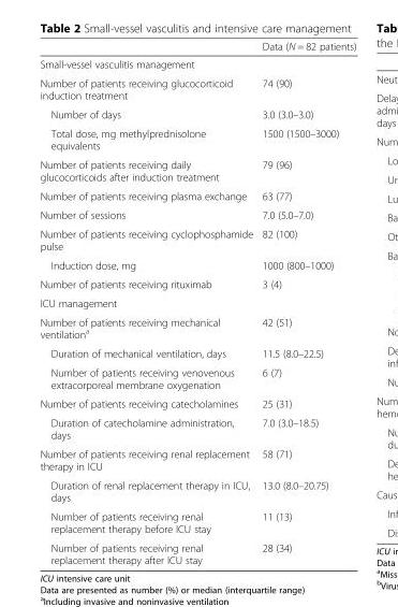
<table><thead><tr><td></td><td>Data (N = 82 patients)</td></tr></thead><tbody><tr><td colspan="2">Small-vessel vasculitis management</td></tr><tr><td>Number of patients receiving glucocorticoid induction treatment</td><td>74 (90)</td></tr><tr><td>Number of days</td><td>3.0 (3.0–3.0)</td></tr><tr><td>Total dose, mg methylprednisolone equivalents</td><td>1500 (1500–3000)</td></tr><tr><td>Number of patients receiving daily glucocorticoids after induction treatment</td><td>79 (96)</td></tr><tr><td>Number of patients receiving plasma exchange</td><td>63 (77)</td></tr><tr><td>Number of sessions</td><td>7.0 (5.0–7.0)</td></tr><tr><td>Number of patients receiving cyclophosphamide pulse</td><td>82 (100)</td></tr><tr><td>Induction dose, mg</td><td>1000 (800–1000)</td></tr><tr><td>Number of patients receiving rituximab</td><td>3 (4)</td></tr><tr><td colspan="2">ICU management</td></tr><tr><td>Number of patients receiving mechanical ventilation<sup>a</sup></td><td>42 (51)</td></tr><tr><td>Duration of mechanical ventilation, days</td><td>11.5 (8.0–22.5)</td></tr><tr><td>Number of patients receiving venovenous extracorporeal membrane oxygenation</td><td>6 (7)</td></tr><tr><td>Number of patients receiving catecholamines</td><td>25 (31)</td></tr><tr><td>Duration of catecholamine administration, days</td><td>7.0 (3.0–18.5)</td></tr><tr><td>Number of patients receiving renal replacement therapy in ICU</td><td>58 (71)</td></tr><tr><td>Duration of renal replacement therapy in ICU, days</td><td>13.0 (8.0–20.75)</td></tr><tr><td>Number of patients receiving renal replacement therapy before ICU stay</td><td>11 (13)</td></tr><tr><td>Number of patients receiving renal replacement therapy after ICU stay</td><td>28 (34)</td></tr></tbody></table>